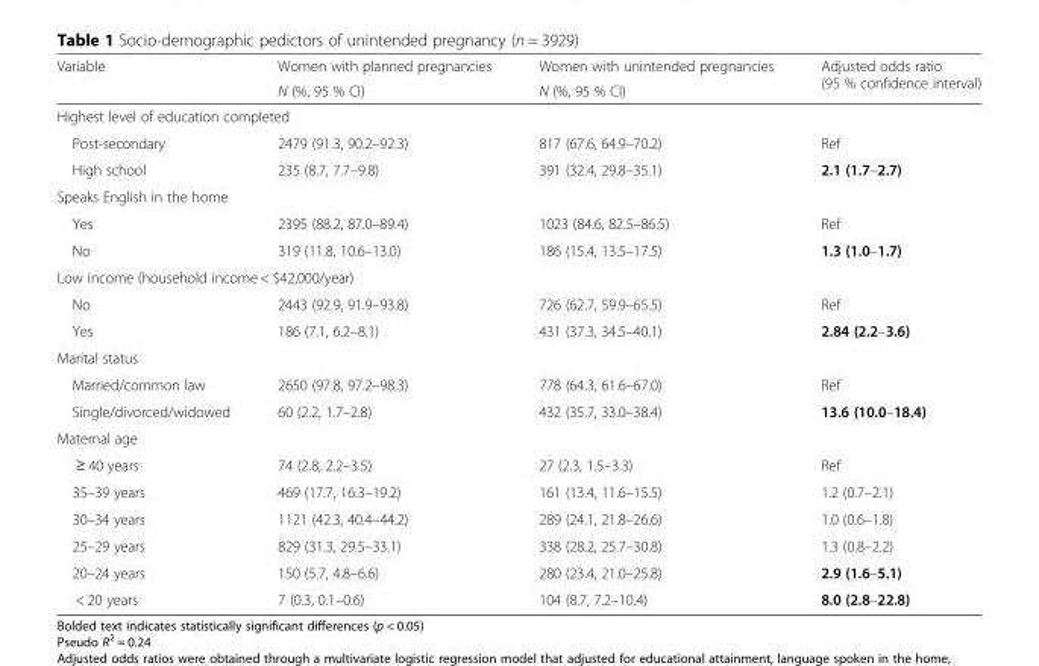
<table><thead><tr><td rowspan="2">Variable</td><td rowspan="2">Women with planned pregnancies N (%, 95 % CI)</td><td rowspan="2">Women with unintended pregnancies N (%, 95 % CI)</td><td rowspan="2">Adjusted odds ratio (95 % confidence interval)</td></tr><tr></tr></thead><tbody><tr><td colspan="4">Highest level of education completed</td></tr><tr><td>Post-secondary</td><td>2479 (91.3, 90.2–92.3)</td><td>817 (67.6, 64.9–70.2)</td><td>Ref</td></tr><tr><td>High school</td><td>235 (8.7, 7.7–9.8)</td><td>391 (32.4, 29.8–35.1)</td><td>2.1 (1.7–2.7)</td></tr><tr><td colspan="4">Speaks English in the home</td></tr><tr><td>Yes</td><td>2395 (88.2, 87.0–89.4)</td><td>1023 (84.6, 82.5–86.5)</td><td>Ref</td></tr><tr><td>No</td><td>319 (11.8, 10.6–13.0)</td><td>186 (15.4, 13.5–17.5)</td><td>1.3 (1.0–1.7)</td></tr><tr><td colspan="4">Low income (household income &lt; $42,000/year)</td></tr><tr><td>No</td><td>2443 (92.9, 91.9–93.8)</td><td>726 (62.7, 59.9–65.5)</td><td>Ref</td></tr><tr><td>Yes</td><td>186 (7.1, 6.2–8.1)</td><td>431 (37.3, 34.5–40.1)</td><td>2.84 (2.2–3.6)</td></tr><tr><td colspan="4">Marital status</td></tr><tr><td>Married/common law</td><td>2650 (97.8, 97.2–98.3)</td><td>778 (64.3, 61.6–67.0)</td><td>Ref</td></tr><tr><td>Single/divorced/widowed</td><td>60 (2.2, 1.7–2.8)</td><td>432 (35.7, 33.0–38.4)</td><td>13.6 (10.0–18.4)</td></tr><tr><td colspan="4">Maternal age</td></tr><tr><td>≥ 40 years</td><td>74 (2.8, 2.2–3.5)</td><td>27 (2.3, 1.5–3.3)</td><td>Ref</td></tr><tr><td>35–39 years</td><td>469 (17.7, 16.3–19.2)</td><td>161 (13.4, 11.6–15.5)</td><td>1.2 (0.7–2.1)</td></tr><tr><td>30–34 years</td><td>1121 (42.3, 40.4–44.2)</td><td>289 (24.1, 21.8–26.6)</td><td>1.0 (0.6–1.8)</td></tr><tr><td>25–29 years</td><td>829 (31.3, 29.5–33.1)</td><td>338 (28.2, 25.7–30.8)</td><td>1.3 (0.8–2.2)</td></tr><tr><td>20–24 years</td><td>150 (5.7, 4.8–6.6)</td><td>280 (23.4, 21.0–25.8)</td><td>2.9 (1.6–5.1)</td></tr><tr><td>&lt; 20 years</td><td>7 (0.3, 0.1–0.6)</td><td>104 (8.7, 7.2–10.4)</td><td>8.0 (2.8–22.8)</td></tr></tbody></table>